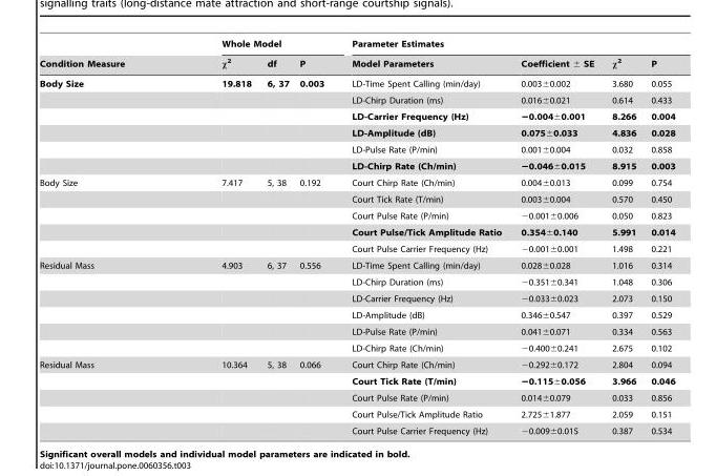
<table><thead><tr><td rowspan="2">Condition Measure</td><td colspan="3">Whole Model</td><td colspan="4">Parameter Estimates</td></tr><tr><td>χ<sup>2</sup></td><td>df</td><td>P</td><td>Model Parameters</td><td>Coefficient ± SE</td><td>χ<sup>2</sup></td><td>P</td></tr></thead><tbody><tr><td rowspan="6">Body Size</td><td>19.818</td><td>6, 37</td><td>0.003</td><td>LD-Time Spent Calling (min/day)</td><td>0.003±0.002</td><td>3.680</td><td>0.055</td></tr><tr><td></td><td></td><td></td><td>LD-Chirp Duration (ms)</td><td>0.016±0.021</td><td>0.614</td><td>0.433</td></tr><tr><td></td><td></td><td></td><td>LD-Carrier Frequency (Hz)</td><td>−0.004±0.001</td><td>8.266</td><td>0.004</td></tr><tr><td></td><td></td><td></td><td>LD-Amplitude (dB)</td><td>0.075±0.033</td><td>4.836</td><td>0.028</td></tr><tr><td></td><td></td><td></td><td>LD-Pulse Rate (P/min)</td><td>0.001±0.004</td><td>0.032</td><td>0.858</td></tr><tr><td></td><td></td><td></td><td>LD-Chirp Rate (Ch/min)</td><td>−0.046±0.015</td><td>8.915</td><td>0.003</td></tr><tr><td rowspan="5">Body Size</td><td>7.417</td><td>5, 38</td><td>0.192</td><td>Court Chirp Rate (Ch/min)</td><td>0.004±0.013</td><td>0.099</td><td>0.754</td></tr><tr><td></td><td></td><td></td><td>Court Tick Rate (T/min)</td><td>0.003±0.004</td><td>0.570</td><td>0.450</td></tr><tr><td></td><td></td><td></td><td>Court Pulse Rate (P/min)</td><td>−0.001±0.006</td><td>0.050</td><td>0.823</td></tr><tr><td></td><td></td><td></td><td>Court Pulse/Tick Amplitude Ratio</td><td>0.354±0.140</td><td>5.991</td><td>0.014</td></tr><tr><td></td><td></td><td></td><td>Court Pulse Carrier Frequency (Hz)</td><td>−0.001±0.001</td><td>1.498</td><td>0.221</td></tr><tr><td rowspan="6">Residual Mass</td><td>4.903</td><td>6, 37</td><td>0.556</td><td>LD-Time Spent Calling (min/day)</td><td>0.028±0.028</td><td>1.016</td><td>0.314</td></tr><tr><td></td><td></td><td></td><td>LD-Chirp Duration (ms)</td><td>−0.351±0.341</td><td>1.048</td><td>0.306</td></tr><tr><td></td><td></td><td></td><td>LD-Carrier Frequency (Hz)</td><td>−0.033±0.023</td><td>2.073</td><td>0.150</td></tr><tr><td></td><td></td><td></td><td>LD-Amplitude (dB)</td><td>0.346±0.547</td><td>0.397</td><td>0.529</td></tr><tr><td></td><td></td><td></td><td>LD-Pulse Rate (P/min)</td><td>0.041±0.071</td><td>0.334</td><td>0.563</td></tr><tr><td></td><td></td><td></td><td>LD-Chirp Rate (Ch/min)</td><td>−0.400±0.241</td><td>2.675</td><td>0.102</td></tr><tr><td rowspan="5">Residual Mass</td><td>10.364</td><td>5, 38</td><td>0.066</td><td>Court Chirp Rate (Ch/min)</td><td>−0.292±0.172</td><td>2.804</td><td>0.094</td></tr><tr><td></td><td></td><td></td><td>Court Tick Rate (T/min)</td><td>−0.115±0.056</td><td>3.966</td><td>0.046</td></tr><tr><td></td><td></td><td></td><td>Court Pulse Rate (P/min)</td><td>0.014±0.079</td><td>0.033</td><td>0.856</td></tr><tr><td></td><td></td><td></td><td>Court Pulse/Tick Amplitude Ratio</td><td>2.725±1.877</td><td>2.059</td><td>0.151</td></tr><tr><td></td><td></td><td></td><td>Court Pulse Carrier Frequency (Hz)</td><td>−0.009±0.015</td><td>0.387</td><td>0.534</td></tr></tbody></table>